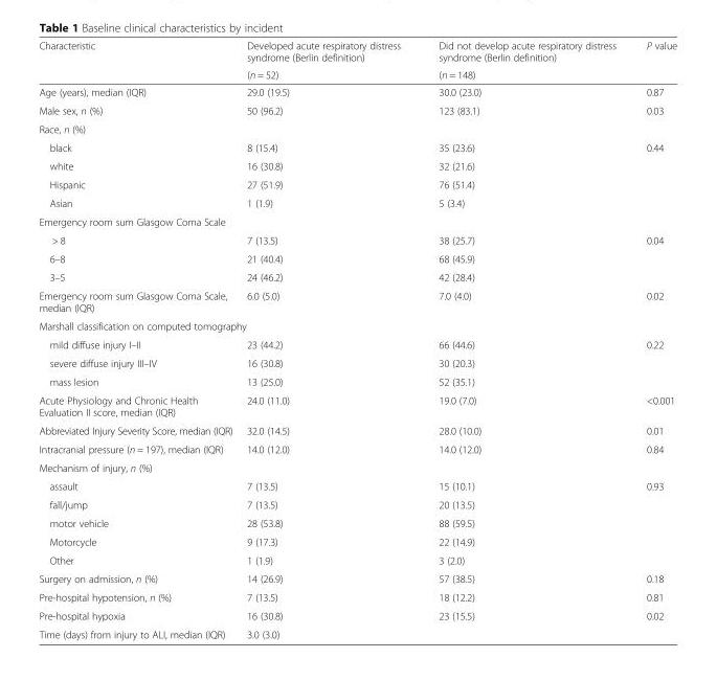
<table><thead><tr><td rowspan="2">Characteristic</td><td rowspan="2">Developed acute respiratory distress syndrome (Berlin definition) (n = 52)</td><td rowspan="2">Did not develop acute respiratory distress syndrome (Berlin definition) (n = 148)</td><td rowspan="2">P value</td></tr><tr></tr></thead><tbody><tr><td>Age (years), median (IQR)</td><td>29.0 (19.5)</td><td>30.0 (23.0)</td><td>0.87</td></tr><tr><td>Male sex, n (%)</td><td>50 (96.2)</td><td>123 (83.1)</td><td>0.03</td></tr><tr><td colspan="4">Race, n (%)</td></tr><tr><td>black</td><td>8 (15.4)</td><td>35 (23.6)</td><td>0.44</td></tr><tr><td>white</td><td>16 (30.8)</td><td>32 (21.6)</td><td></td></tr><tr><td>Hispanic</td><td>27 (51.9)</td><td>76 (51.4)</td><td></td></tr><tr><td>Asian</td><td>1 (1.9)</td><td>5 (3.4)</td><td></td></tr><tr><td colspan="4">Emergency room sum Glasgow Coma Scale</td></tr><tr><td>&gt; 8</td><td>7 (13.5)</td><td>38 (25.7)</td><td>0.04</td></tr><tr><td>6–8</td><td>21 (40.4)</td><td>68 (45.9)</td><td></td></tr><tr><td>3–5</td><td>24 (46.2)</td><td>42 (28.4)</td><td></td></tr><tr><td>Emergency room sum Glasgow Coma Scale, median (IQR)</td><td>6.0 (5.0)</td><td>7.0 (4.0)</td><td>0.02</td></tr><tr><td colspan="4">Marshall classification on computed tomography</td></tr><tr><td>mild diffuse injury I–II</td><td>23 (44.2)</td><td>66 (44.6)</td><td>0.22</td></tr><tr><td>severe diffuse injury III–IV</td><td>16 (30.8)</td><td>30 (20.3)</td><td></td></tr><tr><td>mass lesion</td><td>13 (25.0)</td><td>52 (35.1)</td><td></td></tr><tr><td>Acute Physiology and Chronic Health Evaluation II score, median (IQR)</td><td>24.0 (11.0)</td><td>19.0 (7.0)</td><td>&lt;0.001</td></tr><tr><td>Abbreviated Injury Severity Score, median (IQR)</td><td>32.0 (14.5)</td><td>28.0 (10.0)</td><td>0.01</td></tr><tr><td>Intracranial pressure (n = 197), median (IQR)</td><td>14.0 (12.0)</td><td>14.0 (12.0)</td><td>0.84</td></tr><tr><td colspan="4">Mechanism of injury, n (%)</td></tr><tr><td>assault</td><td>7 (13.5)</td><td>15 (10.1)</td><td>0.93</td></tr><tr><td>fall/jump</td><td>7 (13.5)</td><td>20 (13.5)</td><td></td></tr><tr><td>motor vehicle</td><td>28 (53.8)</td><td>88 (59.5)</td><td></td></tr><tr><td>Motorcycle</td><td>9 (17.3)</td><td>22 (14.9)</td><td></td></tr><tr><td>Other</td><td>1 (1.9)</td><td>3 (2.0)</td><td></td></tr><tr><td>Surgery on admission, n (%)</td><td>14 (26.9)</td><td>57 (38.5)</td><td>0.18</td></tr><tr><td>Pre-hospital hypotension, n (%)</td><td>7 (13.5)</td><td>18 (12.2)</td><td>0.81</td></tr><tr><td>Pre-hospital hypoxia</td><td>16 (30.8)</td><td>23 (15.5)</td><td>0.02</td></tr><tr><td>Time (days) from injury to ALI, median (IQR)</td><td>3.0 (3.0)</td><td></td><td></td></tr></tbody></table>